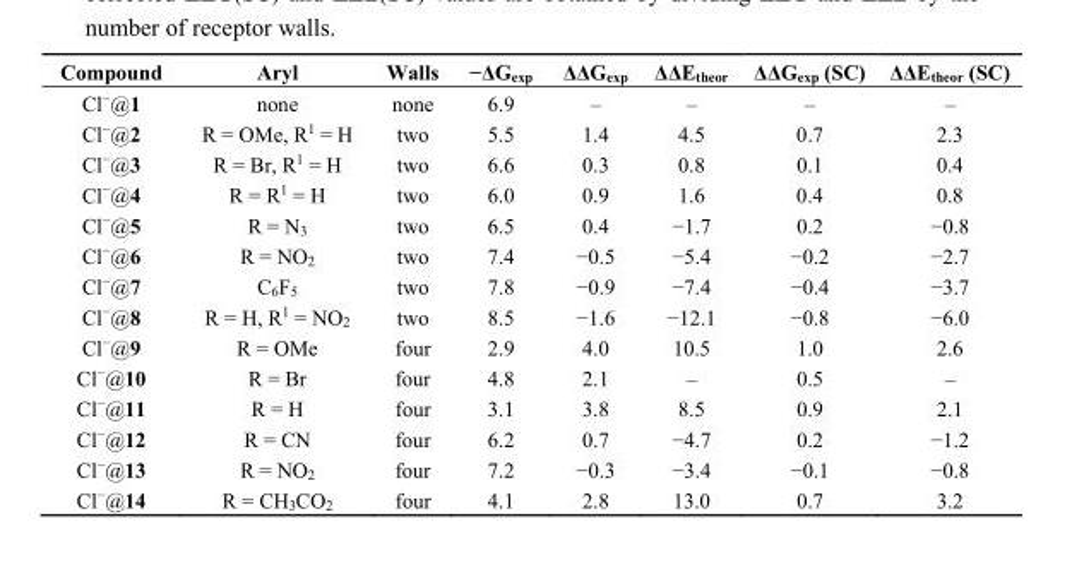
<table><thead><tr><td>Compound</td><td>Aryl</td><td>Walls</td><td>−ΔG<sub>exp</sub></td><td>ΔΔG<sub>exp</sub></td><td>ΔΔE<sub>theor</sub></td><td>ΔΔG<sub>exp</sub> (SC)</td><td>ΔΔE<sub>theor</sub> (SC)</td></tr></thead><tbody><tr><td>Cl<sup>−</sup>@1</td><td>none</td><td>none</td><td>6.9</td><td>–</td><td>–</td><td>–</td><td>–</td></tr><tr><td>Cl<sup>−</sup>@2</td><td>R = OMe, R<sup>1</sup> = H</td><td>two</td><td>5.5</td><td>1.4</td><td>4.5</td><td>0.7</td><td>2.3</td></tr><tr><td>Cl<sup>−</sup>@3</td><td>R = Br, R<sup>1</sup> = H</td><td>two</td><td>6.6</td><td>0.3</td><td>0.8</td><td>0.1</td><td>0.4</td></tr><tr><td>Cl<sup>−</sup>@4</td><td>R = R<sup>1</sup> = H</td><td>two</td><td>6.0</td><td>0.9</td><td>1.6</td><td>0.4</td><td>0.8</td></tr><tr><td>Cl<sup>−</sup>@5</td><td>R = N<sub>3</sub></td><td>two</td><td>6.5</td><td>0.4</td><td>−1.7</td><td>0.2</td><td>−0.8</td></tr><tr><td>Cl<sup>−</sup>@6</td><td>R = NO<sub>2</sub></td><td>two</td><td>7.4</td><td>−0.5</td><td>−5.4</td><td>−0.2</td><td>−2.7</td></tr><tr><td>Cl<sup>−</sup>@7</td><td>C<sub>6</sub>F<sub>5</sub></td><td>two</td><td>7.8</td><td>−0.9</td><td>−7.4</td><td>−0.4</td><td>−3.7</td></tr><tr><td>Cl<sup>−</sup>@8</td><td>R = H, R<sup>1</sup> = NO<sub>2</sub></td><td>two</td><td>8.5</td><td>−1.6</td><td>−12.1</td><td>−0.8</td><td>−6.0</td></tr><tr><td>Cl<sup>−</sup>@9</td><td>R = OMe</td><td>four</td><td>2.9</td><td>4.0</td><td>10.5</td><td>1.0</td><td>2.6</td></tr><tr><td>Cl<sup>−</sup>@10</td><td>R = Br</td><td>four</td><td>4.8</td><td>2.1</td><td>–</td><td>0.5</td><td>–</td></tr><tr><td>Cl<sup>−</sup>@11</td><td>R = H</td><td>four</td><td>3.1</td><td>3.8</td><td>8.5</td><td>0.9</td><td>2.1</td></tr><tr><td>Cl<sup>−</sup>@12</td><td>R = CN</td><td>four</td><td>6.2</td><td>0.7</td><td>−4.7</td><td>0.2</td><td>−1.2</td></tr><tr><td>Cl<sup>−</sup>@13</td><td>R = NO<sub>2</sub></td><td>four</td><td>7.2</td><td>−0.3</td><td>−3.4</td><td>−0.1</td><td>−0.8</td></tr><tr><td>Cl<sup>−</sup>@14</td><td>R = CH<sub>3</sub>CO<sub>2</sub></td><td>four</td><td>4.1</td><td>2.8</td><td>13.0</td><td>0.7</td><td>3.2</td></tr></tbody></table>